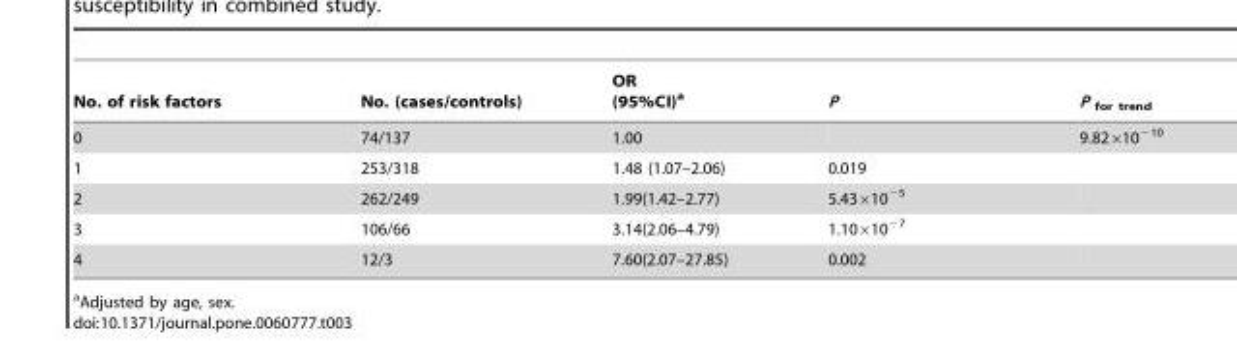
<table><thead><tr><td>No. of risk factors</td><td>No. (cases/controls)</td><td>OR (95%CI)<sup>a</sup></td><td>P</td><td>P <sub>for trend</sub></td></tr></thead><tbody><tr><td>0</td><td>74/137</td><td>1.00</td><td></td><td>9.82×10<sup>−10</sup></td></tr><tr><td>1</td><td>253/318</td><td>1.48 (1.07–2.06)</td><td>0.019</td><td></td></tr><tr><td>2</td><td>262/249</td><td>1.99(1.42–2.77)</td><td>5.43×10<sup>−5</sup></td><td></td></tr><tr><td>3</td><td>106/66</td><td>3.14(2.06–4.79)</td><td>1.10×10<sup>−7</sup></td><td></td></tr><tr><td>4</td><td>12/3</td><td>7.60(2.07–27.85)</td><td>0.002</td><td></td></tr></tbody></table>